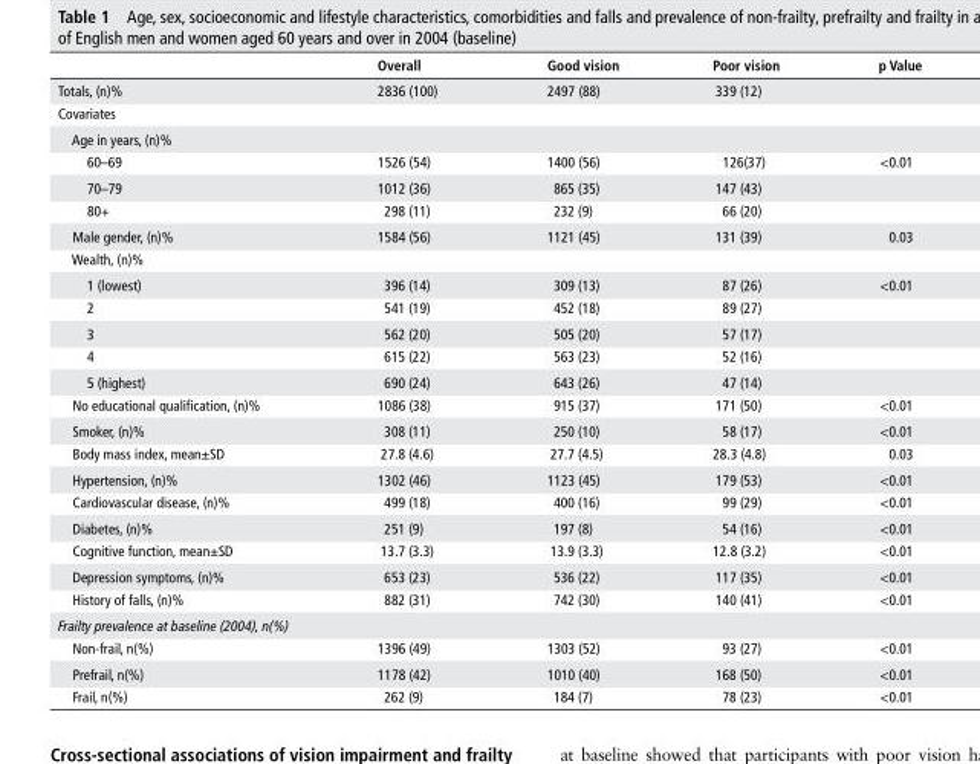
<table><thead><tr><td></td><td>overall</td><td>Good vision</td><td>Poor vision</td><td>p Value</td></tr></thead><tbody><tr><td>Totals, (n)%</td><td>2836 (100)</td><td>2497 (88)</td><td>339 (12)</td><td></td></tr><tr><td colspan="5">Covariates</td></tr><tr><td colspan="5">Age in years, (n)%</td></tr><tr><td>60–69</td><td>1526 (54)</td><td>1400 (56)</td><td>126(37)</td><td>&lt;0.01</td></tr><tr><td>70–79</td><td>1012 (36)</td><td>865 (35)</td><td>147 (43)</td><td></td></tr><tr><td>80+</td><td>298 (11)</td><td>232 (9)</td><td>66 (20)</td><td></td></tr><tr><td>Male gender, (n)%</td><td>1584 (56)</td><td>1121 (45)</td><td>131 (39)</td><td>0.03</td></tr><tr><td colspan="5">Wealth, (n)%</td></tr><tr><td>1 (lowest)</td><td>396 (14)</td><td>309 (13)</td><td>87 (26)</td><td>&lt;0.01</td></tr><tr><td>2</td><td>541 (19)</td><td>452 (18)</td><td>89 (27)</td><td></td></tr><tr><td>3</td><td>562 (20)</td><td>505 (20)</td><td>57 (17)</td><td></td></tr><tr><td>4</td><td>615 (22)</td><td>563 (23)</td><td>52 (16)</td><td></td></tr><tr><td>5 (highest)</td><td>690 (24)</td><td>643 (26)</td><td>47 (14)</td><td></td></tr><tr><td>No educational qualification, (n)%</td><td>1086 (38)</td><td>915 (37)</td><td>171 (50)</td><td>&lt;0.01</td></tr><tr><td>Smoker, (n)%</td><td>308 (11)</td><td>250 (10)</td><td>58 (17)</td><td>&lt;0.01</td></tr><tr><td>Body mass index, mean±SD</td><td>27.8 (4.6)</td><td>27.7 (4.5)</td><td>28.3 (4.8)</td><td>0.03</td></tr><tr><td>Hypertension, (n)%</td><td>1302 (46)</td><td>1123 (45)</td><td>179 (53)</td><td>&lt;0.01</td></tr><tr><td>Cardiovascular disease, (n)%</td><td>499 (18)</td><td>400 (16)</td><td>99 (29)</td><td>&lt;0.01</td></tr><tr><td>Diabetes, (n)%</td><td>251 (9)</td><td>197 (8)</td><td>54 (16)</td><td>&lt;0.01</td></tr><tr><td>Cognitive function, mean±SD</td><td>13.7 (3.3)</td><td>13.9 (3.3)</td><td>12.8 (3.2)</td><td>&lt;0.01</td></tr><tr><td>Depression symptoms, (n)%</td><td>653 (23)</td><td>536 (22)</td><td>117 (35)</td><td>&lt;0.01</td></tr><tr><td>History of falls, (n)%</td><td>882 (31)</td><td>742 (30)</td><td>140 (41)</td><td>&lt;0.01</td></tr><tr><td colspan="5">Frailty prevalence at baseline (2004), n(%)</td></tr><tr><td>Non-frail, n(%)</td><td>1396 (49)</td><td>1303 (52)</td><td>93 (27)</td><td>&lt;0.01</td></tr><tr><td>Prefrail, n(%)</td><td>1178 (42)</td><td>1010 (40)</td><td>168 (50)</td><td>&lt;0.01</td></tr><tr><td>Frail, n(%)</td><td>262 (9)</td><td>184 (7)</td><td>78 (23)</td><td>&lt;0.01</td></tr></tbody></table>